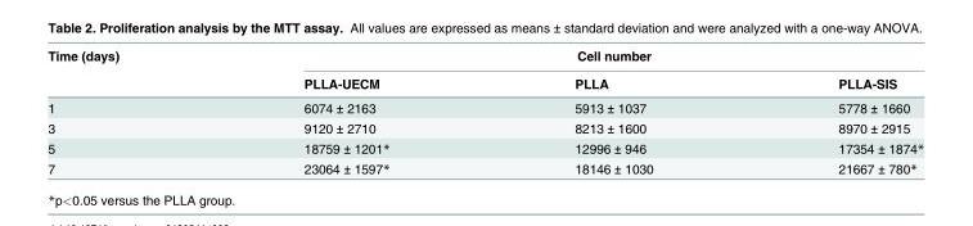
<table><thead><tr><td rowspan="2">Time (days)</td><td colspan="3">Cell number</td></tr><tr><td>PLLA-UECM</td><td>PLLA</td><td>PLLA-SIS</td></tr></thead><tbody><tr><td>1</td><td>6074 ± 2163</td><td>5913 ± 1037</td><td>5778 ± 1660</td></tr><tr><td>3</td><td>9120 ± 2710</td><td>8213 ± 1600</td><td>8970 ± 2915</td></tr><tr><td>5</td><td>18759 ± 1201*</td><td>12996 ± 946</td><td>17354 ± 1874*</td></tr><tr><td>7</td><td>23064 ± 1597*</td><td>18146 ± 1030</td><td>21667 ± 780*</td></tr></tbody></table>